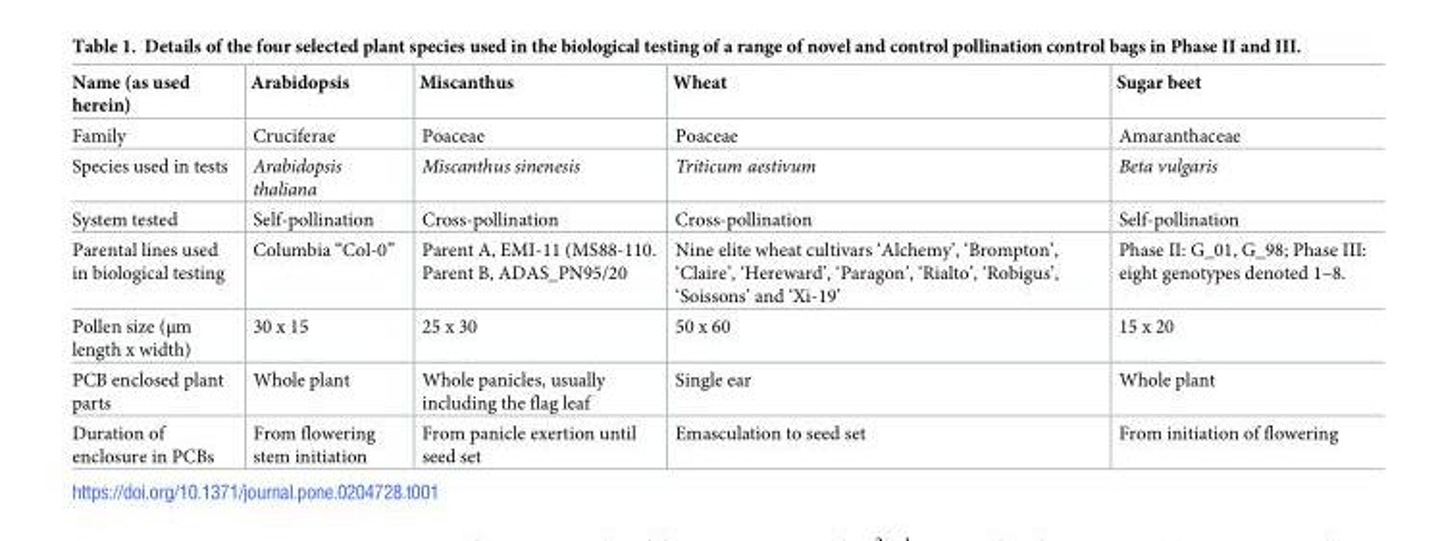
<table><thead><tr><td>Name (as used herein)</td><td>Arabidopsis</td><td>Miscanthus</td><td>Wheat</td><td>Sugar beet</td></tr></thead><tbody><tr><td>Family</td><td>Cruciferae</td><td>Poaceae</td><td>Poaceae</td><td>Amaranthaceae</td></tr><tr><td>Species used in tests</td><td>Arabidopsis thaliana</td><td>Miscanthus sinenesis</td><td>Triticum aestivum</td><td>Beta vulgaris</td></tr><tr><td>System tested</td><td>Self-pollination</td><td>Cross-pollination</td><td>Cross-pollination</td><td>Self-pollination</td></tr><tr><td>Parental lines used in biological testing</td><td>Columbia “Col-0”</td><td>Parent A, EMI-11 (MS88-110. Parent B, ADAS_PN95/20</td><td>Nine elite wheat cultivars ‘Alchemy’, ‘Brompton’, ‘Claire’, ‘Hereward’, ‘Paragon’, ‘Rialto’, ‘Robigus’, ‘Soissons’ and ‘Xi-19’</td><td>Phase II: G_01, G_98; Phase III: eight genotypes denoted 1–8.</td></tr><tr><td>Pollen size (μm length x width)</td><td>30 x 15</td><td>25 x 30</td><td>50 x 60</td><td>15 x 20</td></tr><tr><td>PCB enclosed plant parts</td><td>Whole plant</td><td>Whole panicles, usually including the flag leaf</td><td>Single ear</td><td>Whole plant</td></tr><tr><td>Duration of enclosure in PCBs</td><td>From flowering stem initiation</td><td>From panicle exertion until seed set</td><td>Emasculation to seed set</td><td>From initiation of flowering</td></tr></tbody></table>